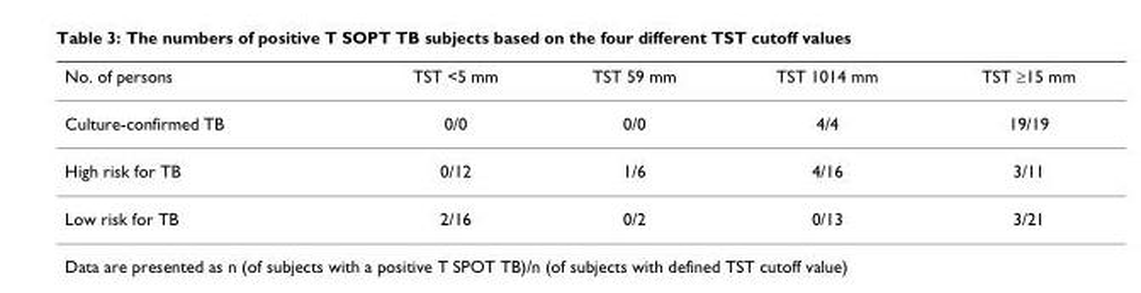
<table><thead><tr><td>No. of persons</td><td>TST &lt;5 mm</td><td>TST 59 mm</td><td>TST 1014 mm</td><td>TST ≥15 mm</td></tr></thead><tbody><tr><td>Culture-confirmed TB</td><td>0/0</td><td>0/0</td><td>4/4</td><td>19/19</td></tr><tr><td>High risk for TB</td><td>0/12</td><td>1/6</td><td>4/16</td><td>3/11</td></tr><tr><td>Low risk for TB</td><td>2/16</td><td>0/2</td><td>0/13</td><td>3/21</td></tr></tbody></table>